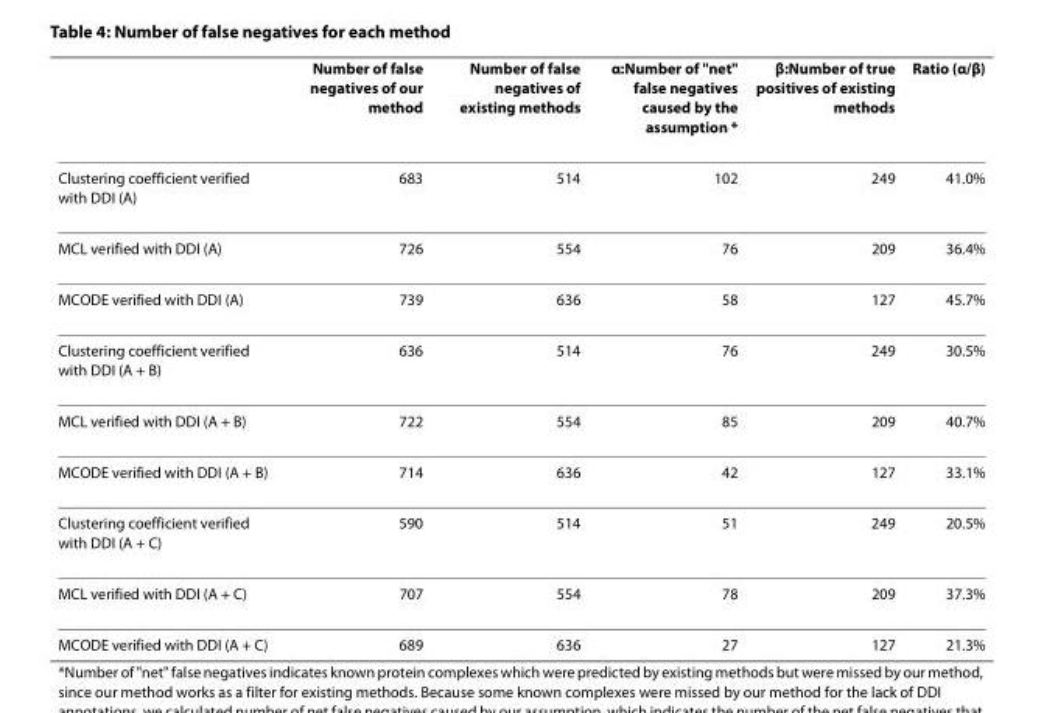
<table><thead><tr><td></td><td>Number of false negatives of our method</td><td>Number of false negatives of existing methods</td><td>α:Number of &quot;net&quot; false negatives caused by the assumption *</td><td>β:Number of true positives of existing methods</td><td>Ratio (α/β)</td></tr></thead><tbody><tr><td>Clustering coefficient verified with DDI (A)</td><td>683</td><td>514</td><td>102</td><td>249</td><td>41.0%</td></tr><tr><td>MCL verified with DDI (A)</td><td>726</td><td>554</td><td>76</td><td>209</td><td>36.4%</td></tr><tr><td>MCODE verified with DDI (A)</td><td>739</td><td>636</td><td>58</td><td>127</td><td>45.7%</td></tr><tr><td>Clustering coefficient verified with DDI (A + B)</td><td>636</td><td>514</td><td>76</td><td>249</td><td>30.5%</td></tr><tr><td>MCL verified with DDI (A + B)</td><td>722</td><td>554</td><td>85</td><td>209</td><td>40.7%</td></tr><tr><td>MCODE verified with DDI (A + B)</td><td>714</td><td>636</td><td>42</td><td>127</td><td>33.1%</td></tr><tr><td>Clustering coefficient verified with DDI (A + C)</td><td>590</td><td>514</td><td>51</td><td>249</td><td>20.5%</td></tr><tr><td>MCL verified with DDI (A + C)</td><td>707</td><td>554</td><td>78</td><td>209</td><td>37.3%</td></tr><tr><td>MCODE verified with DDI (A + C)</td><td>689</td><td>636</td><td>27</td><td>127</td><td>21.3%</td></tr></tbody></table>